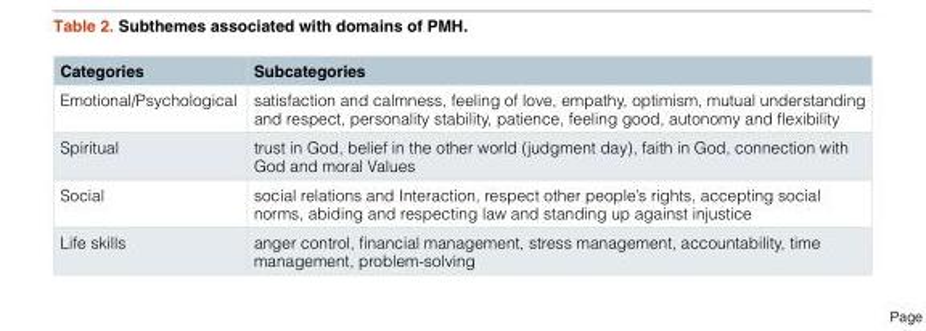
<table><thead><tr><td>Categories</td><td>Subcategories</td></tr></thead><tbody><tr><td>Emotional/Psychological</td><td>satisfaction and calmness, feeling of love, empathy, optimism, mutual understanding and respect, personality stability, patience, feeling good, autonomy and flexibility</td></tr><tr><td>Spiritual</td><td>trust in God, belief in the other world (judgment day), faith in God, connection with God and moral Values</td></tr><tr><td>Social</td><td>social relations and Interaction, respect other people’s rights, accepting social norms, abiding and respecting law and standing up against injustice</td></tr><tr><td>Life skills</td><td>anger control, financial management, stress management, accountability, time management, problem-solving</td></tr></tbody></table>